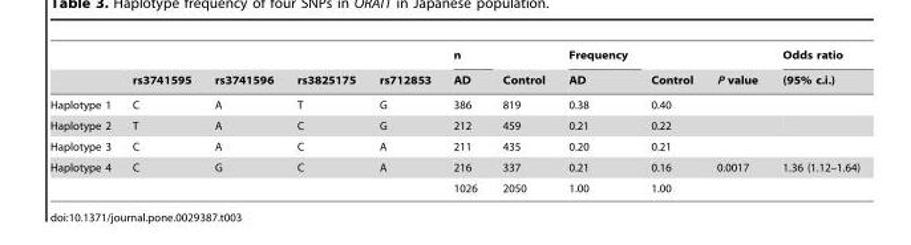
<table><thead><tr><td rowspan="2"></td><td rowspan="2">rs3741595</td><td rowspan="2">rs3741596</td><td rowspan="2">rs3825175</td><td rowspan="2">rs712853</td><td rowspan="2">n AD</td><td rowspan="2">Control</td><td rowspan="2">Frequency AD</td><td rowspan="2">Control</td><td rowspan="2">P value</td><td rowspan="2">Odds ratio (95% c.i.)</td></tr><tr></tr></thead><tbody><tr><td>Haplotype 1</td><td>C</td><td>A</td><td>T</td><td>G</td><td>386</td><td>819</td><td>0.38</td><td>0.40</td><td></td><td></td></tr><tr><td>Haplotype 2</td><td>T</td><td>A</td><td>C</td><td>G</td><td>212</td><td>459</td><td>0.21</td><td>0.22</td><td></td><td></td></tr><tr><td>Haplotype 3</td><td>C</td><td>A</td><td>C</td><td>A</td><td>211</td><td>435</td><td>0.20</td><td>0.21</td><td></td><td></td></tr><tr><td rowspan="2">Haplotype 4</td><td>C</td><td>G</td><td>C</td><td>A</td><td>216</td><td>337</td><td>0.21</td><td>0.16</td><td>0.0017</td><td>1.36 (1.12–1.64)</td></tr><tr><td></td><td></td><td></td><td></td><td>1026</td><td>2050</td><td>1.00</td><td>1.00</td><td></td><td></td></tr></tbody></table>